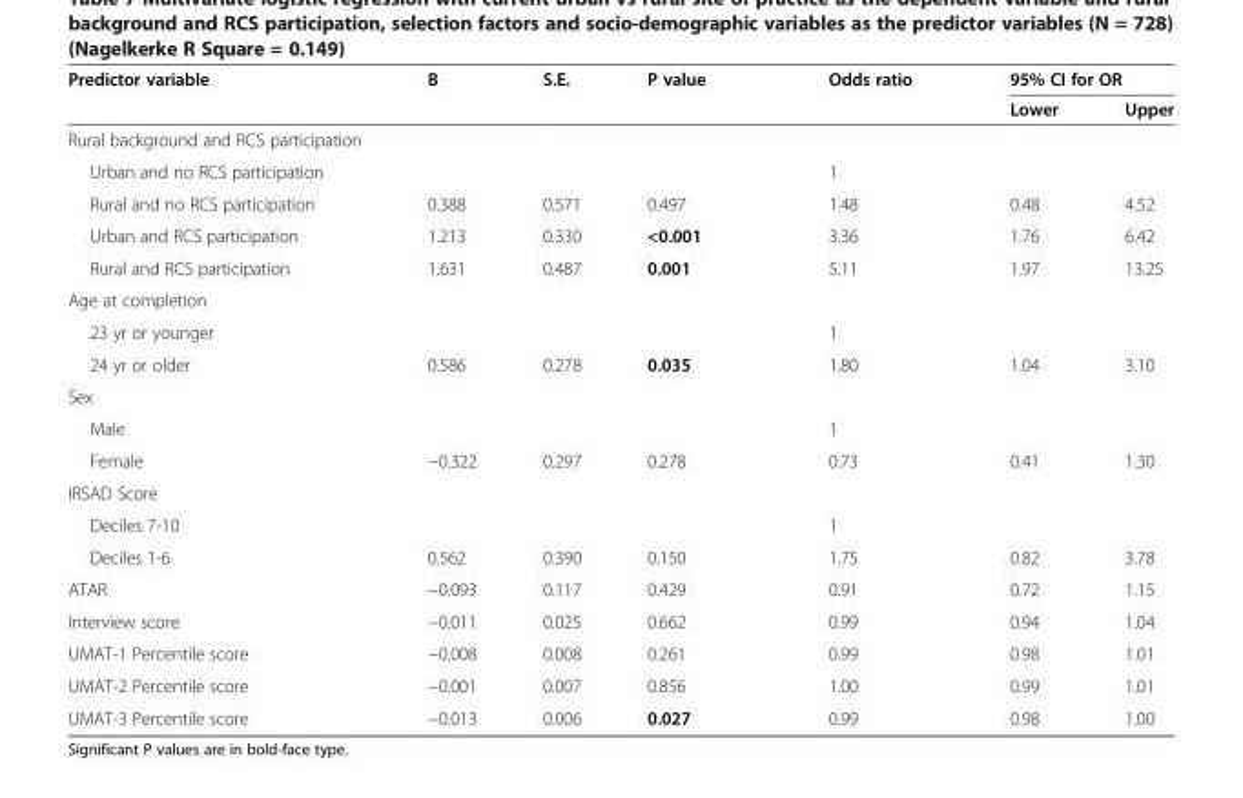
<table><thead><tr><td rowspan="2">Predictor variable</td><td rowspan="2">B</td><td rowspan="2">S.E.</td><td rowspan="2">P value</td><td rowspan="2">Odds ratio</td><td colspan="2">95% CI for OR</td></tr><tr><td>Lower</td><td>Upper</td></tr></thead><tbody><tr><td colspan="7">Rural background and RCS participation</td></tr><tr><td>Urban and no RCS participation</td><td></td><td></td><td></td><td>1</td><td></td><td></td></tr><tr><td>Rural and no RCS participation</td><td>0.388</td><td>0.571</td><td>0.497</td><td>1.48</td><td>0.48</td><td>4.52</td></tr><tr><td>Urban and RCS participation</td><td>1.213</td><td>0.330</td><td>&lt;0.001</td><td>3.36</td><td>1.76</td><td>6.42</td></tr><tr><td>Rural and RCS participation</td><td>1.631</td><td>0.487</td><td>0.001</td><td>5.11</td><td>1.97</td><td>13.25</td></tr><tr><td colspan="7">Age at completion</td></tr><tr><td>23 yr or younger</td><td></td><td></td><td></td><td>1</td><td></td><td></td></tr><tr><td>24 yr or older</td><td>0.586</td><td>0.278</td><td>0.035</td><td>1.80</td><td>1.04</td><td>3.10</td></tr><tr><td colspan="7">Sex</td></tr><tr><td>Male</td><td></td><td></td><td></td><td>1</td><td></td><td></td></tr><tr><td>Female</td><td>−0.322</td><td>0.297</td><td>0.278</td><td>0.73</td><td>0.41</td><td>1.30</td></tr><tr><td colspan="7">IRSAD Score</td></tr><tr><td>Deciles 7-10</td><td></td><td></td><td></td><td>1</td><td></td><td></td></tr><tr><td>Deciles 1-6</td><td>0.562</td><td>0.390</td><td>0.150</td><td>1.75</td><td>0.82</td><td>3.78</td></tr><tr><td>ATAR</td><td>−0.093</td><td>0.117</td><td>0.429</td><td>0.91</td><td>0.72</td><td>1.15</td></tr><tr><td>Interview score</td><td>−0.011</td><td>0.025</td><td>0.662</td><td>0.99</td><td>0.94</td><td>1.04</td></tr><tr><td>UMAT-1 Percentile score</td><td>−0.008</td><td>0.008</td><td>0.261</td><td>0.99</td><td>0.98</td><td>1.01</td></tr><tr><td>UMAT-2 Percentile score</td><td>−0.001</td><td>0.007</td><td>0.856</td><td>1.00</td><td>0.99</td><td>1.01</td></tr><tr><td>UMAT-3 Percentile score</td><td>−0.013</td><td>0.006</td><td>0.027</td><td>0.99</td><td>0.98</td><td>1.00</td></tr></tbody></table>